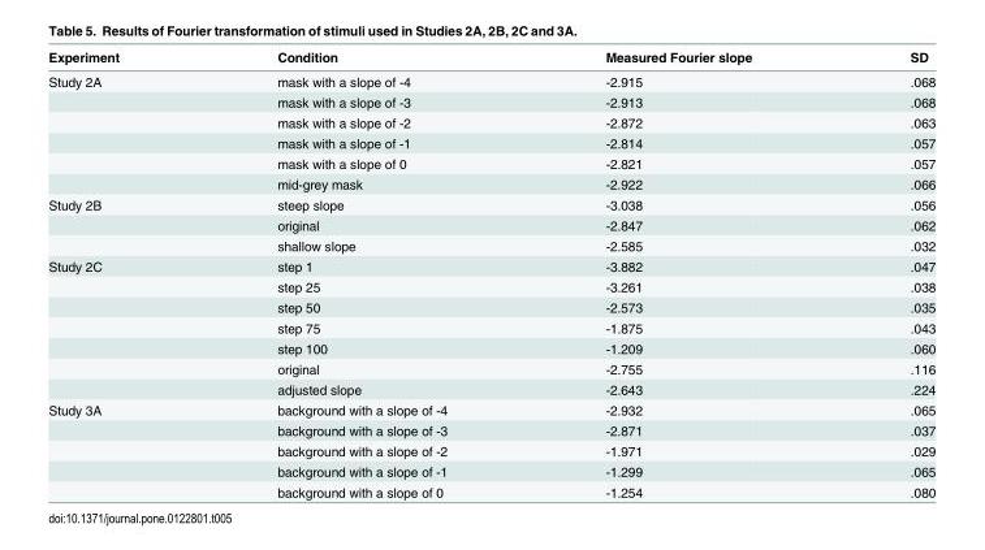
<table><thead><tr><td>Experiment</td><td>Condition</td><td>Measured Fourier slope</td><td>SD</td></tr></thead><tbody><tr><td rowspan="6">Study 2A</td><td>mask with a slope of -4</td><td>-2.915</td><td>.068</td></tr><tr><td>mask with a slope of -3</td><td>-2.913</td><td>.068</td></tr><tr><td>mask with a slope of -2</td><td>-2.872</td><td>.063</td></tr><tr><td>mask with a slope of -1</td><td>-2.814</td><td>.057</td></tr><tr><td>mask with a slope of 0</td><td>-2.821</td><td>.057</td></tr><tr><td>mid-grey mask</td><td>-2.922</td><td>.066</td></tr><tr><td rowspan="3">Study 2B</td><td>steep slope</td><td>-3.038</td><td>.056</td></tr><tr><td>original</td><td>-2.847</td><td>.062</td></tr><tr><td>shallow slope</td><td>-2.585</td><td>.032</td></tr><tr><td rowspan="7">Study 2C</td><td>step 1</td><td>-3.882</td><td>.047</td></tr><tr><td>step 25</td><td>-3.261</td><td>.038</td></tr><tr><td>step 50</td><td>-2.573</td><td>.035</td></tr><tr><td>step 75</td><td>-1.875</td><td>.043</td></tr><tr><td>step 100</td><td>-1.209</td><td>.060</td></tr><tr><td>original</td><td>-2.755</td><td>.116</td></tr><tr><td>adjusted slope</td><td>-2.643</td><td>.224</td></tr><tr><td rowspan="5">Study 3A</td><td>background with a slope of -4</td><td>-2.932</td><td>.065</td></tr><tr><td>background with a slope of -3</td><td>-2.871</td><td>.037</td></tr><tr><td>background with a slope of -2</td><td>-1.971</td><td>.029</td></tr><tr><td>background with a slope of -1</td><td>-1.299</td><td>.065</td></tr><tr><td>background with a slope of 0</td><td>-1.254</td><td>.080</td></tr></tbody></table>